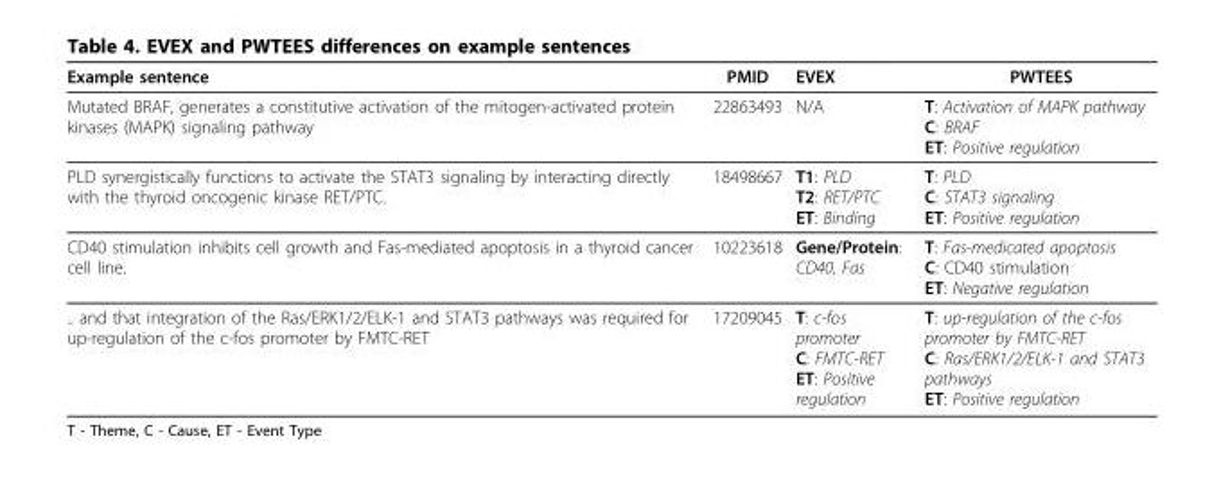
<table><thead><tr><td>Example sentence</td><td>PMID</td><td>EVEX</td><td>PWTEES</td></tr></thead><tbody><tr><td>Mutated BRAF, generates a constitutive activation of the mitogen-activated protein kinases (MAPK) signaling pathway</td><td>22863493</td><td>N/A</td><td>T: Activation of MAPK pathway C: BRAF ET: Positive regulation</td></tr><tr><td>PLD synergistically functions to activate the STAT3 signaling by interacting directly with the thyroid oncogenic kinase RET/PTC.</td><td>18498667</td><td>T1: PLD T2: RET/PTC ET: Binding</td><td>T: PLD C: STAT3 signaling ET: Positive regulation</td></tr><tr><td>CD40 stimulation inhibits cell growth and Fas-mediated apoptosis in a thyroid cancer cell line.</td><td>10223618</td><td>Gene/Protein: CD40, Fas</td><td>T: Fas-medicated apoptosis C: CD40 stimulation ET: Negative regulation</td></tr><tr><td>.. and that integration of the Ras/ERK1/2/ELK-1 and STAT3 pathways was required for up-regulation of the c-fos promoter by FMTC-RET</td><td>17209045</td><td>T: c-fos promoter C: FMTC-RET ET: Positive regulation</td><td>T: up-regulation of the c-fos promoter by FMTC-RET C: Ras/ERK1/2/ELK-1 and STAT3 pathways ET: Positive regulation</td></tr></tbody></table>